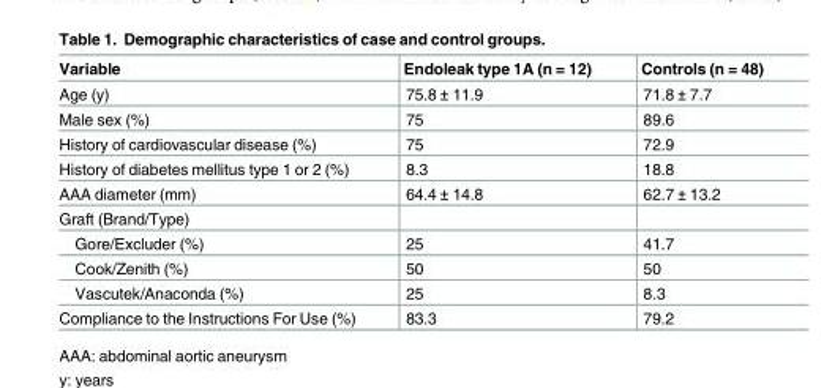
<table><thead><tr><td>Variable</td><td>Endoleak type 1A (n = 12)</td><td>Controls (n = 48)</td></tr></thead><tbody><tr><td>Age (y)</td><td>75.8 ± 11.9</td><td>71.8 ± 7.7</td></tr><tr><td>Male sex (%)</td><td>75</td><td>89.6</td></tr><tr><td>History of cardiovascular disease (%)</td><td>75</td><td>72.9</td></tr><tr><td>History of diabetes mellitus type 1 or 2 (%)</td><td>8.3</td><td>18.8</td></tr><tr><td>AAA diameter (mm)</td><td>64.4 ± 14.8</td><td>62.7 ± 13.2</td></tr><tr><td colspan="3">Graft (Brand/Type)</td></tr><tr><td>Gore/Excluder (%)</td><td>25</td><td>41.7</td></tr><tr><td>Cook/Zenith (%)</td><td>50</td><td>50</td></tr><tr><td>Vascutek/Anaconda (%)</td><td>25</td><td>8.3</td></tr><tr><td>Compliance to the Instructions For Use (%)</td><td>83.3</td><td>79.2</td></tr></tbody></table>